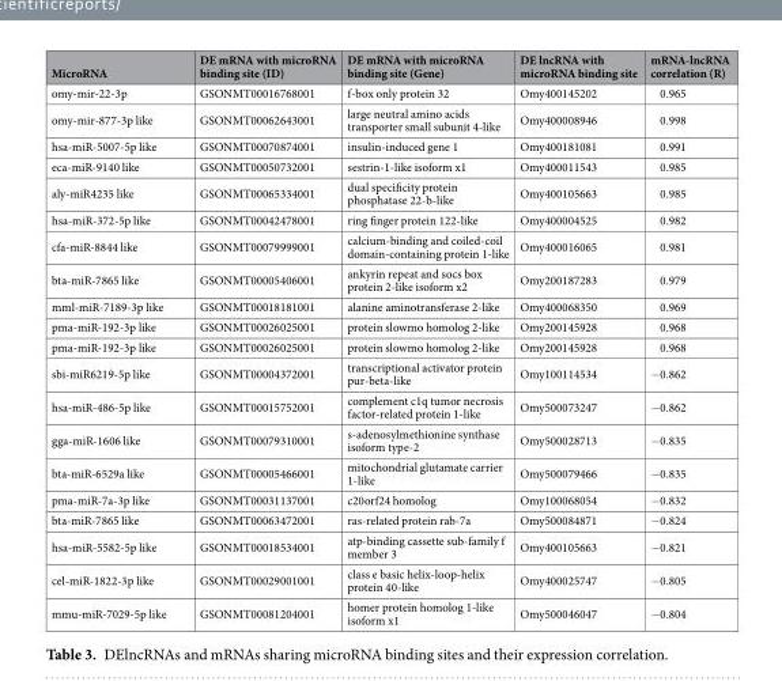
<table><thead><tr><td>MicroRNA</td><td>DE mRNA with microRNA binding site (ID)</td><td>DE mRNA with microRNA binding site (Gene)</td><td>DE lncRNA with microRNA binding site</td><td>mRNA-lncRNA correlation (R)</td></tr></thead><tbody><tr><td>omy-mir-22-3p</td><td>GSONMT00016768001</td><td>f-box only protein 32</td><td>Omy400145202</td><td>0.965</td></tr><tr><td>omy-mir-877-3p like</td><td>GSONMT00062643001</td><td>large neutral amino acids transporter small subunit 4-like</td><td>Omy400008946</td><td>0.998</td></tr><tr><td>hsa-miR-5007-5p like</td><td>GSONMT00070874001</td><td>insulin-induced gene 1</td><td>Omy400181081</td><td>0.991</td></tr><tr><td>eca-miR-9140 like</td><td>GSONMT00050732001</td><td>sestrin-1-like isoform x1</td><td>Omy400011543</td><td>0.985</td></tr><tr><td>aly-miR4235 like</td><td>GSONMT00065334001</td><td>dual specificity protein phosphatase 22-b-like</td><td>Omy400105663</td><td>0.985</td></tr><tr><td>hsa-miR-372-5p like</td><td>GSONMT00042478001</td><td>ring finger protein 122-like</td><td>Omy400004525</td><td>0.982</td></tr><tr><td>cfa-miR-8844 like</td><td>GSONMT00079999001</td><td>calcium-binding and coiled-coil domain-containing protein 1-like</td><td>Omy400016065</td><td>0.981</td></tr><tr><td>bta-miR-7865 like</td><td>GSONMT00005406001</td><td>ankyrin repeat and socs box protein 2-like isoform x2</td><td>Omy200187283</td><td>0.979</td></tr><tr><td>mml-miR-7189-3p like</td><td>GSONMT00018181001</td><td>alanine aminotransferase 2-like</td><td>Omy400068350</td><td>0.969</td></tr><tr><td>pma-miR-192-3p like</td><td>GSONMT00026025001</td><td>protein slowmo homolog 2-like</td><td>Omy200145928</td><td>0.968</td></tr><tr><td>pma-miR-192-3p like</td><td>GSONMT00026025001</td><td>protein slowmo homolog 2-like</td><td>Omy200145928</td><td>0.968</td></tr><tr><td>sbi-miR6219-5p like</td><td>GSONMT00004372001</td><td>transcriptional activator protein pur-beta-like</td><td>Omy100114534</td><td>−0.862</td></tr><tr><td>hsa-miR-486-5p like</td><td>GSONMT00015752001</td><td>complement c1q tumor necrosis factor-related protein 1-like</td><td>Omy500073247</td><td>−0.862</td></tr><tr><td>gga-miR-1606 like</td><td>GSONMT00079310001</td><td>s-adenosylmethionine synthase isoform type-2</td><td>Omy500028713</td><td>−0.835</td></tr><tr><td>bta-miR-6529a like</td><td>GSONMT00005466001</td><td>mitochondrial glutamate carrier 1-like</td><td>Omy500079466</td><td>−0.835</td></tr><tr><td>pma-miR-7a-3p like</td><td>GSONMT00031137001</td><td>c20orf24 homolog</td><td>Omy100068054</td><td>−0.832</td></tr><tr><td>bta-miR-7865 like</td><td>GSONMT00063472001</td><td>ras-related protein rab-7a</td><td>Omy500084871</td><td>−0.824</td></tr><tr><td>hsa-miR-5582-5p like</td><td>GSONMT00018534001</td><td>atp-binding cassette sub-family f member 3</td><td>Omy400105663</td><td>−0.821</td></tr><tr><td>cel-miR-1822-3p like</td><td>GSONMT00029001001</td><td>class e basic helix-loop-helix protein 40-like</td><td>Omy400025747</td><td>−0.805</td></tr><tr><td>mmu-miR-7029-5p like</td><td>GSONMT00081204001</td><td>homer protein homolog 1-like isoform x1</td><td>Omy500046047</td><td>−0.804</td></tr></tbody></table>